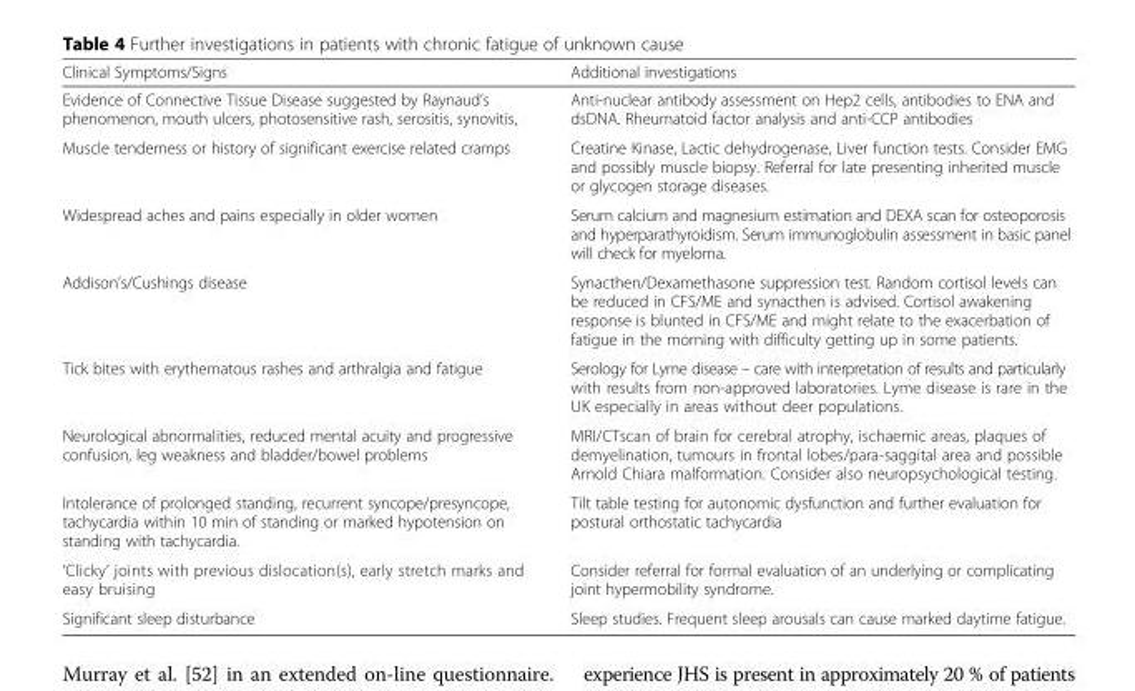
<table><thead><tr><td>Clinical Symptoms/Signs</td><td>Additional investigations</td></tr></thead><tbody><tr><td>Evidence of Connective Tissue Disease suggested by Raynaud’s phenomenon, mouth ulcers, photosensitive rash, serositis, synovitis,</td><td>Anti-nuclear antibody assessment on Hep2 cells, antibodies to ENA and dsDNA. Rheumatoid factor analysis and anti-CCP antibodies</td></tr><tr><td>Muscle tenderness or history of significant exercise related cramps</td><td>Creatine Kinase, Lactic dehydrogenase, Liver function tests. Consider EMG and possibly muscle biopsy. Referral for late presenting inherited muscle or glycogen storage diseases.</td></tr><tr><td>Widespread aches and pains especially in older women</td><td>Serum calcium and magnesium estimation and DEXA scan for osteoporosis and hyperparathyroidism. Serum immunoglobulin assessment in basic panel will check for myeloma.</td></tr><tr><td>Addison’s/Cushings disease</td><td>Synacthen/Dexamethasone suppression test. Random cortisol levels can be reduced in CFS/ME and synacthen is advised. Cortisol awakening response is blunted in CFS/ME and might relate to the exacerbation of fatigue in the morning with difficulty getting up in some patients.</td></tr><tr><td>Tick bites with erythematous rashes and arthralgia and fatigue</td><td>Serology for Lyme disease – care with interpretation of results and particularly with results from non-approved laboratories. Lyme disease is rare in the UK especially in areas without deer populations.</td></tr><tr><td>Neurological abnormalities, reduced mental acuity and progressive confusion, leg weakness and bladder/bowel problems</td><td>MRI/CTscan of brain for cerebral atrophy, ischaemic areas, plaques of demyelination, tumours in frontal lobes/para-saggital area and possible Arnold Chiara malformation. Consider also neuropsychological testing.</td></tr><tr><td>Intolerance of prolonged standing, recurrent syncope/presyncope, tachycardia within 10 min of standing or marked hypotension on standing with tachycardia.</td><td>Tilt table testing for autonomic dysfunction and further evaluation for postural orthostatic tachycardia</td></tr><tr><td>‘Clicky’ joints with previous dislocation(s), early stretch marks and easy bruising</td><td>Consider referral for formal evaluation of an underlying or complicating joint hypermobility syndrome.</td></tr><tr><td>Significant sleep disturbance</td><td>Sleep studies. Frequent sleep arousals can cause marked daytime fatigue.</td></tr></tbody></table>